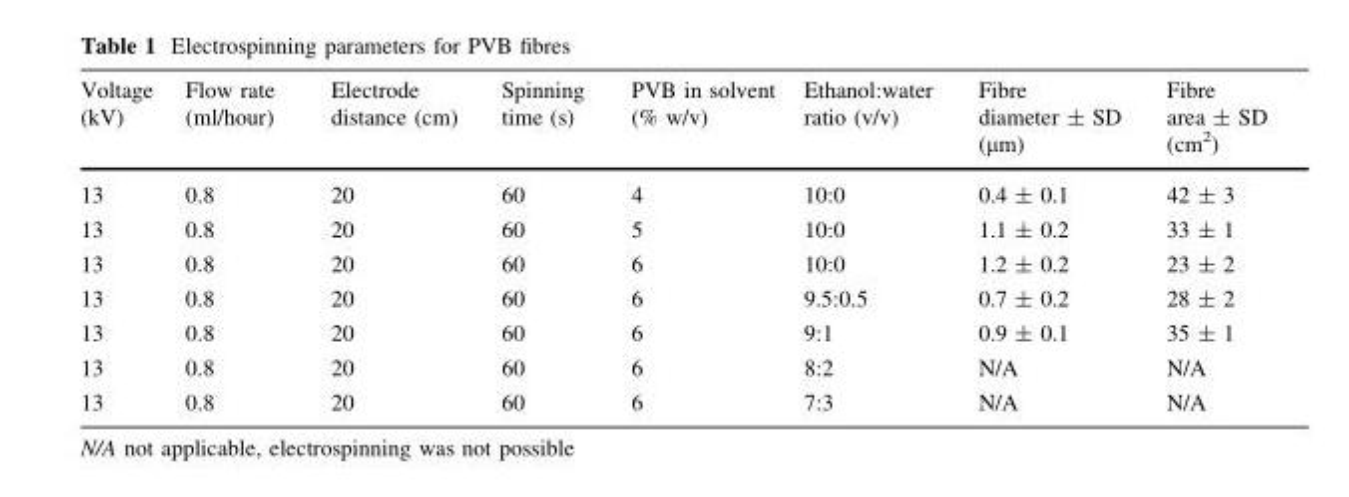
<table><thead><tr><td>Voltage (kV)</td><td>Flow rate (ml/hour)</td><td>Electrode distance (cm)</td><td>Spinning time (s)</td><td>PVB in solvent (% w/v)</td><td>Ethanol:water ratio (v/v)</td><td>Fibre diameter ± SD (µm)</td><td>Fibre area ± SD (cm<sup>2</sup>)</td></tr></thead><tbody><tr><td>13</td><td>0.8</td><td>20</td><td>60</td><td>4</td><td>10:0</td><td>0.4 ± 0.1</td><td>42 ± 3</td></tr><tr><td>13</td><td>0.8</td><td>20</td><td>60</td><td>5</td><td>10:0</td><td>1.1 ± 0.2</td><td>33 ± 1</td></tr><tr><td>13</td><td>0.8</td><td>20</td><td>60</td><td>6</td><td>10:0</td><td>1.2 ± 0.2</td><td>23 ± 2</td></tr><tr><td>13</td><td>0.8</td><td>20</td><td>60</td><td>6</td><td>9.5:0.5</td><td>0.7 ± 0.2</td><td>28 ± 2</td></tr><tr><td>13</td><td>0.8</td><td>20</td><td>60</td><td>6</td><td>9:1</td><td>0.9 ± 0.1</td><td>35 ± 1</td></tr><tr><td>13</td><td>0.8</td><td>20</td><td>60</td><td>6</td><td>8:2</td><td>N/A</td><td>N/A</td></tr><tr><td>13</td><td>0.8</td><td>20</td><td>60</td><td>6</td><td>7:3</td><td>N/A</td><td>N/A</td></tr></tbody></table>